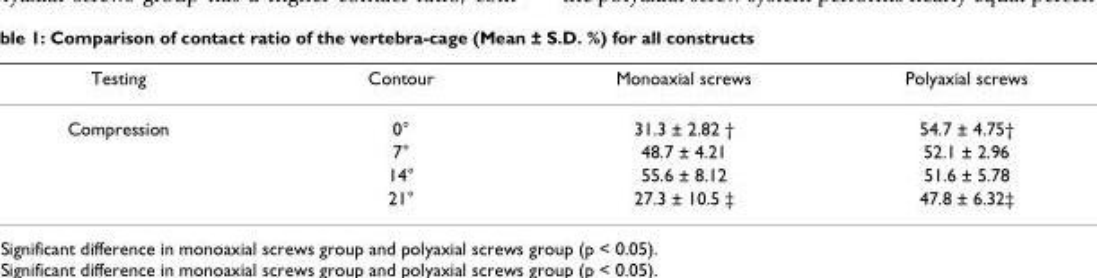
<table><thead><tr><td>Testing</td><td>Contour</td><td>Monoaxial screws</td><td>Polyaxial screws</td></tr></thead><tbody><tr><td rowspan="4">Compression</td><td>0°</td><td>31.3 ± 2.82 †</td><td>54.7 ± 4.75†</td></tr><tr><td>7°</td><td>48.7 ± 4.21</td><td>52.1 ± 2.96</td></tr><tr><td>14°</td><td>55.6 ± 8.12</td><td>51.6 ± 5.78</td></tr><tr><td>21°</td><td>27.3 ± 10.5 ‡</td><td>47.8 ± 6.32‡</td></tr></tbody></table>